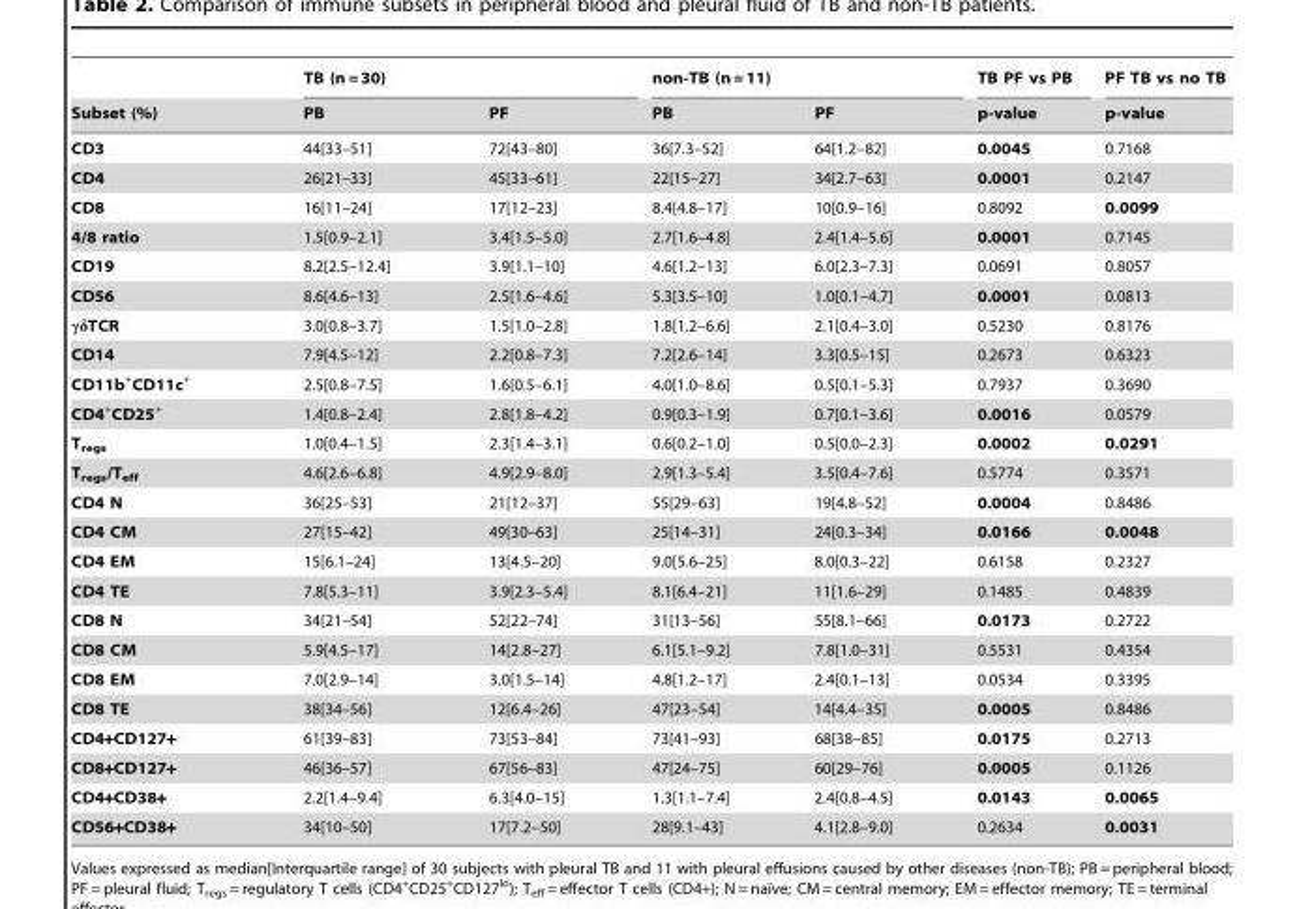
<table><thead><tr><td rowspan="2">Subset (%)</td><td colspan="2">TB (n = 30)</td><td colspan="2">non-TB (n = 11)</td><td rowspan="2">TB PF vs PB p-value</td><td rowspan="2">PF TB vs no TB p-value</td></tr><tr><td>PB</td><td>PF</td><td>PB</td><td>PF</td></tr></thead><tbody><tr><td>CD3</td><td>44[33–51]</td><td>72[43–80]</td><td>36[7.3–52]</td><td>64[1.2–82]</td><td>0.0045</td><td>0.7168</td></tr><tr><td>CD4</td><td>26[21–33]</td><td>45[33–61]</td><td>22[15–27]</td><td>34[2.7–63]</td><td>0.0001</td><td>0.2147</td></tr><tr><td>CD8</td><td>16[11–24]</td><td>17[12–23]</td><td>8.4[4.8–17]</td><td>10[0.9–16]</td><td>0.8092</td><td>0.0099</td></tr><tr><td>4/8 ratio</td><td>1.5[0.9–2.1]</td><td>3.4[1.5–5.0]</td><td>2.7[1.6–4.8]</td><td>2.4[1.4–5.6]</td><td>0.0001</td><td>0.7145</td></tr><tr><td>CD19</td><td>8.2[2.5–12.4]</td><td>3.9[1.1–10]</td><td>4.6[1.2–13]</td><td>6.0[2.3–7.3]</td><td>0.0691</td><td>0.8057</td></tr><tr><td>CD56</td><td>8.6[4.6–13]</td><td>2.5[1.6–4.6]</td><td>5.3[3.5–10]</td><td>1.0[0.1–4.7]</td><td>0.0001</td><td>0.0813</td></tr><tr><td>γδTCR</td><td>3.0[0.8–3.7]</td><td>1.5[1.0–2.8]</td><td>1.8[1.2–6.6]</td><td>2.1[0.4–3.0]</td><td>0.5230</td><td>0.8176</td></tr><tr><td>CD14</td><td>7.9[4.5–12]</td><td>2.2[0.8–7.3]</td><td>7.2[2.6–14]</td><td>3.3[0.5–15]</td><td>0.2673</td><td>0.6323</td></tr><tr><td>CD11b<sup>+</sup>CD11c<sup>+</sup></td><td>2.5[0.8–7.5]</td><td>1.6[0.5–6.1]</td><td>4.0[1.0–8.6]</td><td>0.5[0.1–5.3]</td><td>0.7937</td><td>0.3690</td></tr><tr><td>CD4<sup>+</sup>CD25<sup>+</sup></td><td>1.4[0.8–2.4]</td><td>2.8[1.8–4.2]</td><td>0.9[0.3–1.9]</td><td>0.7[0.1–3.6]</td><td>0.0016</td><td>0.0579</td></tr><tr><td>T<sub>regs</sub></td><td>1.0[0.4–1.5]</td><td>2.3[1.4–3.1]</td><td>0.6[0.2–1.0]</td><td>0.5[0.0–2.3]</td><td>0.0002</td><td>0.0291</td></tr><tr><td>T<sub>regs</sub>/T<sub>eff</sub></td><td>4.6[2.6–6.8]</td><td>4.9[2.9–8.0]</td><td>2.9[1.3–5.4]</td><td>3.5[0.4–7.6]</td><td>0.5774</td><td>0.3571</td></tr><tr><td>CD4 N</td><td>36[25–53]</td><td>21[12–37]</td><td>55[29–63]</td><td>19[4.8–52]</td><td>0.0004</td><td>0.8486</td></tr><tr><td>CD4 CM</td><td>27[15–42]</td><td>49[30–63]</td><td>25[14–31]</td><td>24[0.3–34]</td><td>0.0166</td><td>0.0048</td></tr><tr><td>CD4 EM</td><td>15[6.1–24]</td><td>13[4.5–20]</td><td>9.0[5.6–25]</td><td>8.0[0.3–22]</td><td>0.6158</td><td>0.2327</td></tr><tr><td>CD4 TE</td><td>7.8[5.3–11]</td><td>3.9[2.3–5.4]</td><td>8.1[6.4–21]</td><td>11[1.6–29]</td><td>0.1485</td><td>0.4839</td></tr><tr><td>CD8 N</td><td>34[21–54]</td><td>52[22–74]</td><td>31[13–56]</td><td>55[8.1–66]</td><td>0.0173</td><td>0.2722</td></tr><tr><td>CD8 CM</td><td>5.9[4.5–17]</td><td>14[2.8–27]</td><td>6.1[5.1–9.2]</td><td>7.8[1.0–31]</td><td>0.5531</td><td>0.4354</td></tr><tr><td>CD8 EM</td><td>7.0[2.9–14]</td><td>3.0[1.5–14]</td><td>4.8[1.2–17]</td><td>2.4[0.1–13]</td><td>0.0534</td><td>0.3395</td></tr><tr><td>CD8 TE</td><td>38[34–56]</td><td>12[6.4–26]</td><td>47[23–54]</td><td>14[4.4–35]</td><td>0.0005</td><td>0.8486</td></tr><tr><td>CD4+CD127+</td><td>61[39–83]</td><td>73[53–84]</td><td>73[41–93]</td><td>68[38–85]</td><td>0.0175</td><td>0.2713</td></tr><tr><td>CD8+CD127+</td><td>46[36–57]</td><td>67[56–83]</td><td>47[24–75]</td><td>60[29–76]</td><td>0.0005</td><td>0.1126</td></tr><tr><td>CD4+CD38+</td><td>2.2[1.4–9.4]</td><td>6.3[4.0–15]</td><td>1.3[1.1–7.4]</td><td>2.4[0.8–4.5]</td><td>0.0143</td><td>0.0065</td></tr><tr><td>CD56+CD38+</td><td>34[10–50]</td><td>17[7.2–50]</td><td>28[9.1–43]</td><td>4.1[2.8–9.0]</td><td>0.2634</td><td>0.0031</td></tr></tbody></table>